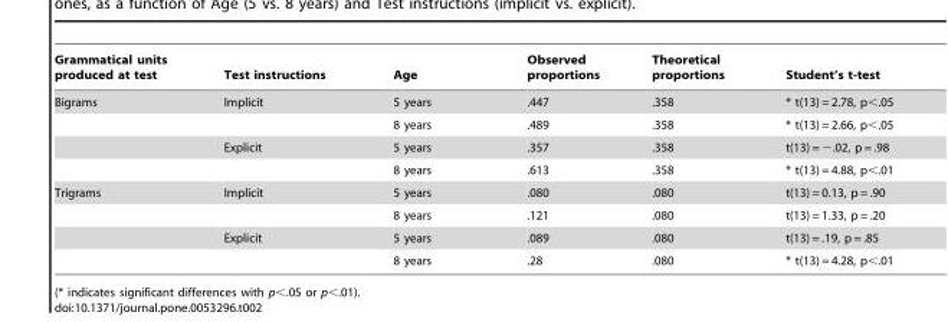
<table><thead><tr><td>Grammatical units produced at test</td><td>Test instructions</td><td>Age</td><td>Observed proportions</td><td>Theoretical proportions</td><td>Student’s t-test</td></tr></thead><tbody><tr><td rowspan="4">Bigrams</td><td>Implicit</td><td>5 years</td><td>.447</td><td>.358</td><td>* t(13) = 2.78, p&lt;.05</td></tr><tr><td></td><td>8 years</td><td>.489</td><td>.358</td><td>* t(13) = 2.66, p&lt;.05</td></tr><tr><td>Explicit</td><td>5 years</td><td>.357</td><td>.358</td><td>t(13) = −.02, p = .98</td></tr><tr><td></td><td>8 years</td><td>.613</td><td>.358</td><td>* t(13) = 4.88, p&lt;.01</td></tr><tr><td rowspan="4">Trigrams</td><td>Implicit</td><td>5 years</td><td>.080</td><td>.080</td><td>t(13) = 0.13, p = .90</td></tr><tr><td></td><td>8 years</td><td>.121</td><td>.080</td><td>t(13) = 1.33, p = .20</td></tr><tr><td>Explicit</td><td>5 years</td><td>.089</td><td>.080</td><td>t(13) = .19, p = .85</td></tr><tr><td></td><td>8 years</td><td>.28</td><td>.080</td><td>* t(13) = 4.28, p&lt;.01</td></tr></tbody></table>